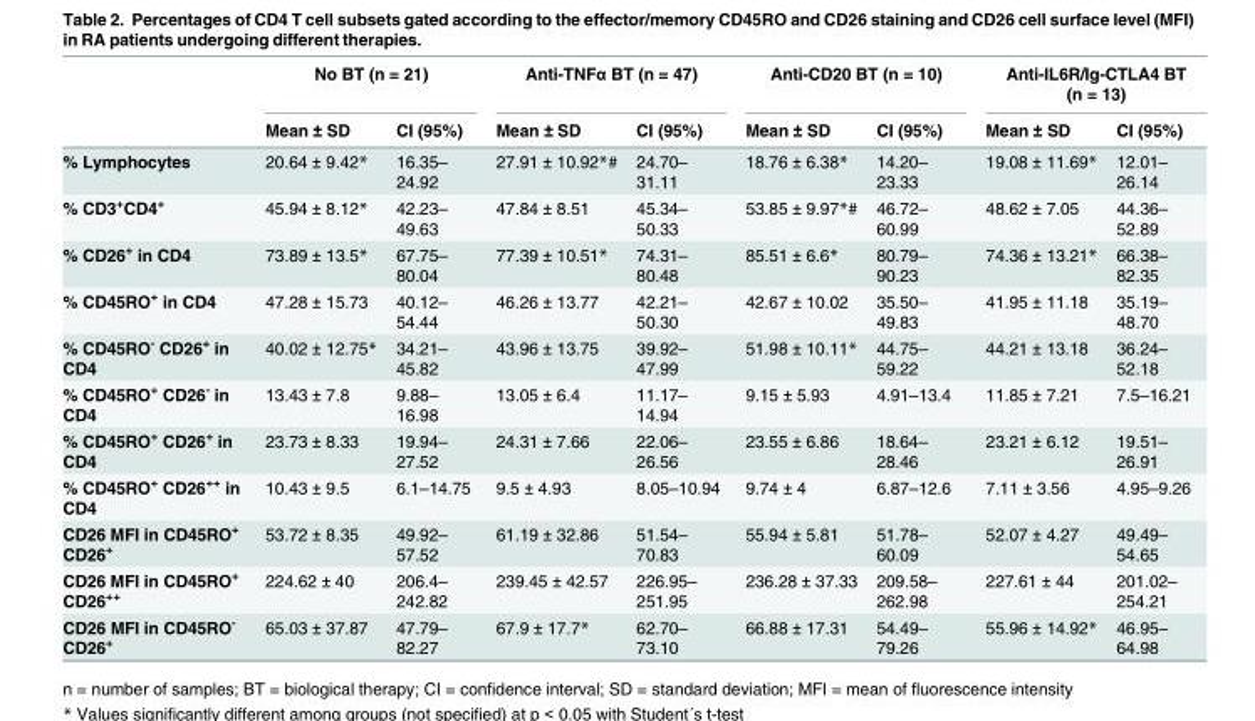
<table><thead><tr><td rowspan="2"></td><td colspan="2">No BT (n = 21)</td><td colspan="2">Anti-TNFα BT (n = 47)</td><td colspan="2">Anti-CD20 BT (n = 10)</td><td colspan="2">Anti-IL6R/Ig-CTLA4 BT (n = 13)</td></tr><tr><td>Mean ± SD</td><td>CI (95%)</td><td>Mean ± SD</td><td>CI (95%)</td><td>Mean ± SD</td><td>CI (95%)</td><td>Mean ± SD</td><td>CI (95%)</td></tr></thead><tbody><tr><td>% Lymphocytes</td><td>20.64 ± 9.42*</td><td>16.35– 24.92</td><td>27.91 ± 10.92*#</td><td>24.70– 31.11</td><td>18.76 ± 6.38*</td><td>14.20– 23.33</td><td>19.08 ± 11.69*</td><td>12.01– 26.14</td></tr><tr><td>% CD3<sup>+</sup>CD4<sup>+</sup></td><td>45.94 ± 8.12*</td><td>42.23– 49.63</td><td>47.84 ± 8.51</td><td>45.34– 50.33</td><td>53.85 ± 9.97*#</td><td>46.72– 60.99</td><td>48.62 ± 7.05</td><td>44.36– 52.89</td></tr><tr><td>% CD26<sup>+</sup> in CD4</td><td>73.89 ± 13.5*</td><td>67.75– 80.04</td><td>77.39 ± 10.51*</td><td>74.31– 80.48</td><td>85.51 ± 6.6*</td><td>80.79– 90.23</td><td>74.36 ± 13.21*</td><td>66.38– 82.35</td></tr><tr><td>% CD45RO<sup>+</sup> in CD4</td><td>47.28 ± 15.73</td><td>40.12– 54.44</td><td>46.26 ± 13.77</td><td>42.21– 50.30</td><td>42.67 ± 10.02</td><td>35.50– 49.83</td><td>41.95 ± 11.18</td><td>35.19– 48.70</td></tr><tr><td>% CD45RO<sup>-</sup> CD26<sup>+</sup> in CD4</td><td>40.02 ± 12.75*</td><td>34.21– 45.82</td><td>43.96 ± 13.75</td><td>39.92– 47.99</td><td>51.98 ± 10.11*</td><td>44.75– 59.22</td><td>44.21 ± 13.18</td><td>36.24– 52.18</td></tr><tr><td>% CD45RO<sup>+</sup> CD26<sup>-</sup> in CD4</td><td>13.43 ± 7.8</td><td>9.88– 16.98</td><td>13.05 ± 6.4</td><td>11.17– 14.94</td><td>9.15 ± 5.93</td><td>4.91–13.4</td><td>11.85 ± 7.21</td><td>7.5–16.21</td></tr><tr><td>% CD45RO<sup>+</sup> CD26<sup>+</sup> in CD4</td><td>23.73 ± 8.33</td><td>19.94– 27.52</td><td>24.31 ± 7.66</td><td>22.06– 26.56</td><td>23.55 ± 6.86</td><td>18.64– 28.46</td><td>23.21 ± 6.12</td><td>19.51– 26.91</td></tr><tr><td>% CD45RO<sup>+</sup> CD26<sup>++</sup> in CD4</td><td>10.43 ± 9.5</td><td>6.1–14.75</td><td>9.5 ± 4.93</td><td>8.05–10.94</td><td>9.74 ± 4</td><td>6.87–12.6</td><td>7.11 ± 3.56</td><td>4.95–9.26</td></tr><tr><td>CD26 MFI in CD45RO<sup>+</sup> CD26<sup>+</sup></td><td>53.72 ± 8.35</td><td>49.92– 57.52</td><td>61.19 ± 32.86</td><td>51.54– 70.83</td><td>55.94 ± 5.81</td><td>51.78– 60.09</td><td>52.07 ± 4.27</td><td>49.49– 54.65</td></tr><tr><td>CD26 MFI in CD45RO<sup>+</sup> CD26<sup>++</sup></td><td>224.62 ± 40</td><td>206.4– 242.82</td><td>239.45 ± 42.57</td><td>226.95– 251.95</td><td>236.28 ± 37.33</td><td>209.58– 262.98</td><td>227.61 ± 44</td><td>201.02– 254.21</td></tr><tr><td>CD26 MFI in CD45RO<sup>-</sup> CD26<sup>+</sup></td><td>65.03 ± 37.87</td><td>47.79– 82.27</td><td>67.9 ± 17.7*</td><td>62.70– 73.10</td><td>66.88 ± 17.31</td><td>54.49– 79.26</td><td>55.96 ± 14.92*</td><td>46.95– 64.98</td></tr></tbody></table>